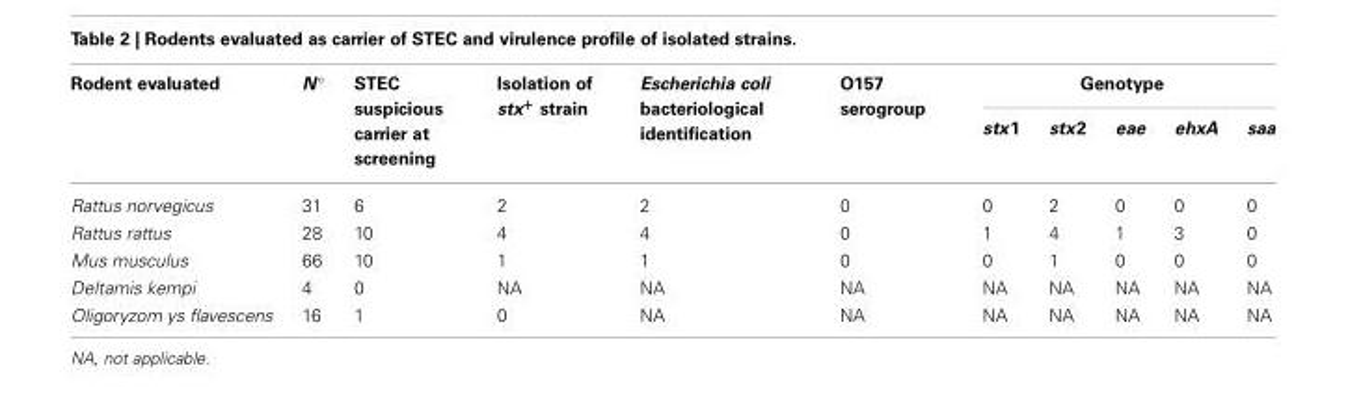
<table><thead><tr><td rowspan="2">Rodent evaluated</td><td rowspan="2">N◦</td><td rowspan="2">STEC suspicious carrier at screening</td><td rowspan="2">Isolation of stx<sup>+</sup> strain</td><td rowspan="2">Escherichia coli bacteriological identification</td><td rowspan="2">O157 serogroup</td><td colspan="5">Genotype</td></tr><tr><td>stx1</td><td>stx2</td><td>eae</td><td>ehxA</td><td>saa</td></tr></thead><tbody><tr><td>Rattus norvegicus</td><td>31</td><td>6</td><td>2</td><td>2</td><td>0</td><td>0</td><td>2</td><td>0</td><td>0</td><td>0</td></tr><tr><td>Rattus rattus</td><td>28</td><td>10</td><td>4</td><td>4</td><td>0</td><td>1</td><td>4</td><td>1</td><td>3</td><td>0</td></tr><tr><td>Mus musculus</td><td>66</td><td>10</td><td>1</td><td>1</td><td>0</td><td>0</td><td>1</td><td>0</td><td>0</td><td>0</td></tr><tr><td>Deltamis kempi</td><td>4</td><td>0</td><td>NA</td><td>NA</td><td>NA</td><td>NA</td><td>NA</td><td>NA</td><td>NA</td><td>NA</td></tr><tr><td>Oligoryzom ys flavescens</td><td>16</td><td>1</td><td>0</td><td>NA</td><td>NA</td><td>NA</td><td>NA</td><td>NA</td><td>NA</td><td>NA</td></tr></tbody></table>